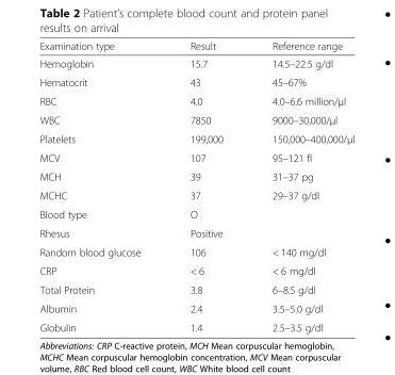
<table><thead><tr><td>Examination type</td><td>Result</td><td>Reference range</td></tr></thead><tbody><tr><td>Hemoglobin</td><td>15.7</td><td>14.5–22.5 g/dl</td></tr><tr><td>Hematocrit</td><td>43</td><td>45–67%</td></tr><tr><td>RBC</td><td>4.0</td><td>4.0–6.6 million/μl</td></tr><tr><td>WBC</td><td>7850</td><td>9000–30,000/μl</td></tr><tr><td>Platelets</td><td>199,000</td><td>150,000–400,000/μl</td></tr><tr><td>MCV</td><td>107</td><td>95–121 fl</td></tr><tr><td>MCH</td><td>39</td><td>31–37 pg</td></tr><tr><td>MCHC</td><td>37</td><td>29–37 g/dl</td></tr><tr><td>Blood type</td><td>O</td><td></td></tr><tr><td>Rhesus</td><td>Positive</td><td></td></tr><tr><td>Random blood glucose</td><td>106</td><td>&lt; 140 mg/dl</td></tr><tr><td>CRP</td><td>&lt; 6</td><td>&lt; 6 mg/dl</td></tr><tr><td>Total Protein</td><td>3.8</td><td>6–8.5 g/dl</td></tr><tr><td>Albumin</td><td>2.4</td><td>3.5–5.0 g/dl</td></tr><tr><td>Globulin</td><td>1.4</td><td>2.5–3.5 g/dl</td></tr></tbody></table>